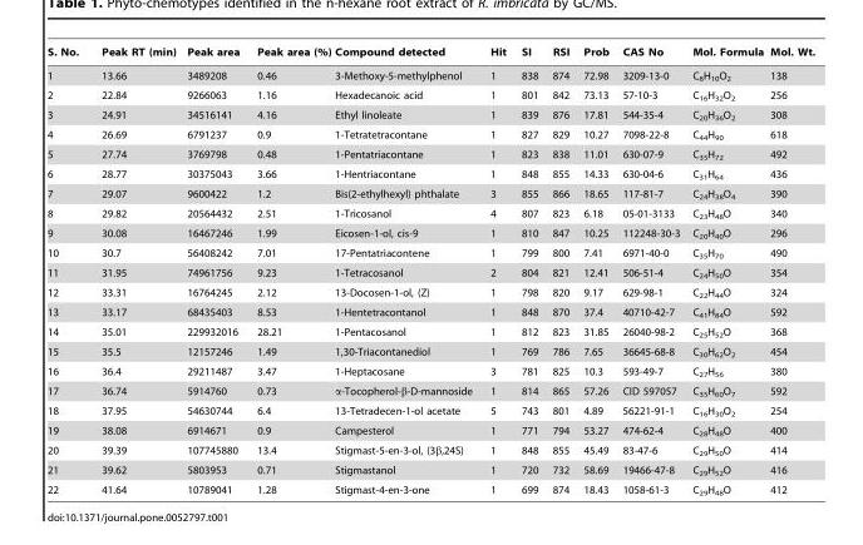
<table><thead><tr><td>S. No.</td><td>Peak RT (min)</td><td>Peak area</td><td>Peak area (%)</td><td>Compound detected</td><td>Hit</td><td>SI</td><td>RSI</td><td>Prob</td><td>CAS No</td><td>Mol. Formula</td><td>Mol. Wt.</td></tr></thead><tbody><tr><td>1</td><td>13.66</td><td>3489208</td><td>0.46</td><td>3-Methoxy-5-methylphenol</td><td>1</td><td>838</td><td>874</td><td>72.98</td><td>3209-13-0</td><td>C<sub>8</sub>H<sub>10</sub>O<sub>2</sub></td><td>138</td></tr><tr><td>2</td><td>22.84</td><td>9266063</td><td>1.16</td><td>Hexadecanoic acid</td><td>1</td><td>801</td><td>842</td><td>73.13</td><td>57-10-3</td><td>C<sub>16</sub>H<sub>32</sub>O<sub>2</sub></td><td>256</td></tr><tr><td>3</td><td>24.91</td><td>34516141</td><td>4.16</td><td>Ethyl linoleate</td><td>1</td><td>839</td><td>876</td><td>17.81</td><td>544-35-4</td><td>C<sub>20</sub>H<sub>36</sub>O<sub>2</sub></td><td>308</td></tr><tr><td>4</td><td>26.69</td><td>6791237</td><td>0.9</td><td>1-Tetratetracontane</td><td>1</td><td>827</td><td>829</td><td>10.27</td><td>7098-22-8</td><td>C<sub>44</sub>H<sub>90</sub></td><td>618</td></tr><tr><td>5</td><td>27.74</td><td>3769798</td><td>0.48</td><td>1-Pentatriacontane</td><td>1</td><td>823</td><td>838</td><td>11.01</td><td>630-07-9</td><td>C<sub>35</sub>H<sub>72</sub></td><td>492</td></tr><tr><td>6</td><td>28.77</td><td>30375043</td><td>3.66</td><td>1-Hentriacontane</td><td>1</td><td>848</td><td>855</td><td>14.33</td><td>630-04-6</td><td>C<sub>31</sub>H<sub>64</sub></td><td>436</td></tr><tr><td>7</td><td>29.07</td><td>9600422</td><td>1.2</td><td>Bis(2-ethylhexyl) phthalate</td><td>3</td><td>855</td><td>866</td><td>18.65</td><td>117-81-7</td><td>C<sub>24</sub>H<sub>38</sub>O<sub>4</sub></td><td>390</td></tr><tr><td>8</td><td>29.82</td><td>20564432</td><td>2.51</td><td>1-Tricosanol</td><td>4</td><td>807</td><td>823</td><td>6.18</td><td>05-01-3133</td><td>C<sub>23</sub>H<sub>48</sub>O</td><td>340</td></tr><tr><td>9</td><td>30.08</td><td>16467246</td><td>1.99</td><td>Eicosen-1-ol, cis-9</td><td>1</td><td>810</td><td>847</td><td>10.25</td><td>112248-30-3</td><td>C<sub>20</sub>H<sub>40</sub>O</td><td>296</td></tr><tr><td>10</td><td>30.7</td><td>56408242</td><td>7.01</td><td>17-Pentatriacontene</td><td>1</td><td>799</td><td>800</td><td>7.41</td><td>6971-40-0</td><td>C<sub>35</sub>H<sub>70</sub></td><td>490</td></tr><tr><td>11</td><td>31.95</td><td>74961756</td><td>9.23</td><td>1-Tetracosanol</td><td>2</td><td>804</td><td>821</td><td>12.41</td><td>506-51-4</td><td>C<sub>24</sub>H<sub>50</sub>O</td><td>354</td></tr><tr><td>12</td><td>33.31</td><td>16764245</td><td>2.12</td><td>13-Docosen-1-ol, (Z)</td><td>1</td><td>798</td><td>820</td><td>9.17</td><td>629-98-1</td><td>C<sub>22</sub>H<sub>44</sub>O</td><td>324</td></tr><tr><td>13</td><td>33.17</td><td>68435403</td><td>8.53</td><td>1-Hentetracontanol</td><td>1</td><td>848</td><td>870</td><td>37.4</td><td>40710-42-7</td><td>C<sub>41</sub>H<sub>84</sub>O</td><td>592</td></tr><tr><td>14</td><td>35.01</td><td>229932016</td><td>28.21</td><td>1-Pentacosanol</td><td>1</td><td>812</td><td>823</td><td>31.85</td><td>26040-98-2</td><td>C<sub>25</sub>H<sub>52</sub>O</td><td>368</td></tr><tr><td>15</td><td>35.5</td><td>12157246</td><td>1.49</td><td>1,30-Triacontanediol</td><td>1</td><td>769</td><td>786</td><td>7.65</td><td>36645-68-8</td><td>C<sub>30</sub>H<sub>62</sub>O<sub>2</sub></td><td>454</td></tr><tr><td>16</td><td>36.4</td><td>29211487</td><td>3.47</td><td>1-Heptacosane</td><td>3</td><td>781</td><td>825</td><td>10.3</td><td>593-49-7</td><td>C<sub>27</sub>H<sub>56</sub></td><td>380</td></tr><tr><td>17</td><td>36.74</td><td>5914760</td><td>0.73</td><td>α-Tocopherol-β-D-mannoside</td><td>1</td><td>814</td><td>865</td><td>57.26</td><td>CID 597057</td><td>C<sub>35</sub>H<sub>60</sub>O<sub>7</sub></td><td>592</td></tr><tr><td>18</td><td>37.95</td><td>54630744</td><td>6.4</td><td>13-Tetradecen-1-ol acetate</td><td>5</td><td>743</td><td>801</td><td>4.89</td><td>56221-91-1</td><td>C<sub>16</sub>H<sub>30</sub>O<sub>2</sub></td><td>254</td></tr><tr><td>19</td><td>38.08</td><td>6914671</td><td>0.9</td><td>Campesterol</td><td>1</td><td>771</td><td>794</td><td>53.27</td><td>474-62-4</td><td>C<sub>28</sub>H<sub>48</sub>O</td><td>400</td></tr><tr><td>20</td><td>39.39</td><td>107745880</td><td>13.4</td><td>Stigmast-5-en-3-ol, (3β,24S)</td><td>1</td><td>848</td><td>855</td><td>45.49</td><td>83-47-6</td><td>C<sub>29</sub>H<sub>50</sub>O</td><td>414</td></tr><tr><td>21</td><td>39.62</td><td>5803953</td><td>0.71</td><td>Stigmastanol</td><td>1</td><td>720</td><td>732</td><td>58.69</td><td>19466-47-8</td><td>C<sub>29</sub>H<sub>52</sub>O</td><td>416</td></tr><tr><td>22</td><td>41.64</td><td>10789041</td><td>1.28</td><td>Stigmast-4-en-3-one</td><td>1</td><td>699</td><td>874</td><td>18.43</td><td>1058-61-3</td><td>C<sub>29</sub>H<sub>48</sub>O</td><td>412</td></tr></tbody></table>